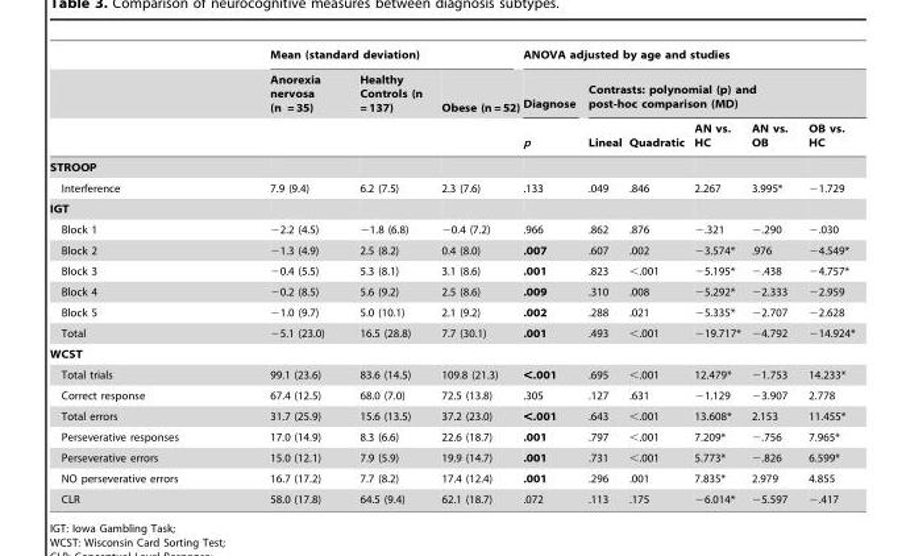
<table><thead><tr><td rowspan="3"></td><td colspan="3">Mean (standard deviation)</td><td colspan="6">ANOVA adjusted by age and studies</td></tr><tr><td rowspan="2">Anorexia nervosa (n = 35)</td><td rowspan="2">Healthy Controls (n = 137)</td><td rowspan="2">Obese (n = 52)</td><td rowspan="2">Diagnose p</td><td colspan="5">Contrasts: polynomial (p) and post-hoc comparison (MD)</td></tr><tr><td>Lineal</td><td>Quadratic</td><td>AN vs. HC</td><td>AN vs. OB</td><td>OB vs. HC</td></tr></thead><tbody><tr><td colspan="10">STROOP</td></tr><tr><td>Interference</td><td>7.9 (9.4)</td><td>6.2 (7.5)</td><td>2.3 (7.6)</td><td>.133</td><td>.049</td><td>.846</td><td>2.267</td><td>3.995*</td><td>−1.729</td></tr><tr><td colspan="10">IGT</td></tr><tr><td>Block 1</td><td>−2.2 (4.5)</td><td>−1.8 (6.8)</td><td>−0.4 (7.2)</td><td>.966</td><td>.862</td><td>.876</td><td>−.321</td><td>−.290</td><td>−.030</td></tr><tr><td>Block 2</td><td>−1.3 (4.9)</td><td>2.5 (8.2)</td><td>0.4 (8.0)</td><td>.007</td><td>.607</td><td>.002</td><td>−3.574*</td><td>.976</td><td>−4.549*</td></tr><tr><td>Block 3</td><td>−0.4 (5.5)</td><td>5.3 (8.1)</td><td>3.1 (8.6)</td><td>.001</td><td>.823</td><td>&lt;.001</td><td>−5.195*</td><td>−.438</td><td>−4.757*</td></tr><tr><td>Block 4</td><td>−0.2 (8.5)</td><td>5.6 (9.2)</td><td>2.5 (8.6)</td><td>.009</td><td>.310</td><td>.008</td><td>−5.292*</td><td>−2.333</td><td>−2.959</td></tr><tr><td>Block 5</td><td>−1.0 (9.7)</td><td>5.0 (10.1)</td><td>2.1 (9.2)</td><td>.002</td><td>.288</td><td>.021</td><td>−5.335*</td><td>−2.707</td><td>−2.628</td></tr><tr><td>Total</td><td>−5.1 (23.0)</td><td>16.5 (28.8)</td><td>7.7 (30.1)</td><td>.001</td><td>.493</td><td>&lt;.001</td><td>−19.717*</td><td>−4.792</td><td>−14.924*</td></tr><tr><td colspan="10">WCST</td></tr><tr><td>Total trials</td><td>99.1 (23.6)</td><td>83.6 (14.5)</td><td>109.8 (21.3)</td><td>&lt;.001</td><td>.695</td><td>&lt;.001</td><td>12.479*</td><td>−1.753</td><td>14.233*</td></tr><tr><td>Correct response</td><td>67.4 (12.5)</td><td>68.0 (7.0)</td><td>72.5 (13.8)</td><td>.305</td><td>.127</td><td>.631</td><td>−1.129</td><td>−3.907</td><td>2.778</td></tr><tr><td>Total errors</td><td>31.7 (25.9)</td><td>15.6 (13.5)</td><td>37.2 (23.0)</td><td>&lt;.001</td><td>.643</td><td>&lt;.001</td><td>13.608*</td><td>2.153</td><td>11.455*</td></tr><tr><td>Perseverative responses</td><td>17.0 (14.9)</td><td>8.3 (6.6)</td><td>22.6 (18.7)</td><td>.001</td><td>.797</td><td>&lt;.001</td><td>7.209*</td><td>−.756</td><td>7.965*</td></tr><tr><td>Perseverative errors</td><td>15.0 (12.1)</td><td>7.9 (5.9)</td><td>19.9 (14.7)</td><td>.001</td><td>.731</td><td>&lt;.001</td><td>5.773*</td><td>−.826</td><td>6.599*</td></tr><tr><td>NO perseverative errors</td><td>16.7 (17.2)</td><td>7.7 (8.2)</td><td>17.4 (12.4)</td><td>.001</td><td>.296</td><td>.001</td><td>7.835*</td><td>2.979</td><td>4.855</td></tr><tr><td>CLR</td><td>58.0 (17.8)</td><td>64.5 (9.4)</td><td>62.1 (18.7)</td><td>.072</td><td>.113</td><td>.175</td><td>−6.014*</td><td>−5.597</td><td>−.417</td></tr></tbody></table>